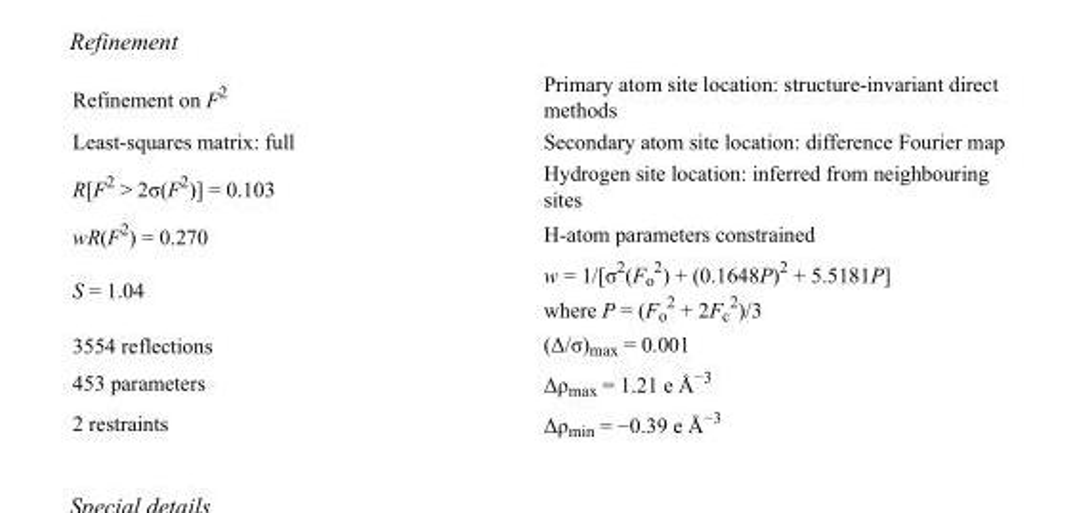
<table><tbody><tr><td>Refinement on F<sup>2</sup></td><td>Primary atom site location: structure-invariant direct methods</td></tr><tr><td>Least-squares matrix: full</td><td>Secondary atom site location: difference Fourier map</td></tr><tr><td>R[F<sup>2</sup> &gt; 2σ(F<sup>2</sup>)] = 0.103</td><td>Hydrogen site location: inferred from neighbouring sites</td></tr><tr><td>wR(F<sup>2</sup>) = 0.270</td><td>H-atom parameters constrained</td></tr><tr><td>S = 1.04</td><td>w = 1/[σ<sup>2</sup>(F<sub>o</sub> <sup>2</sup>) + (0.1648P)<sup>2</sup> + 5.5181P] where P = (F<sub>o</sub> <sup>2</sup> + 2F<sub>c</sub> <sup>2</sup>)/3</td></tr><tr><td>3554 reflections</td><td>(Δ/σ)<sub>max</sub> = 0.001</td></tr><tr><td>453 parameters</td><td>Δρ<sub>max</sub> = 1.21 e Å<sup>−3</sup></td></tr><tr><td>2 restraints</td><td>Δρ<sub>min</sub> = −0.39 e Å<sup>−3</sup></td></tr></tbody></table>